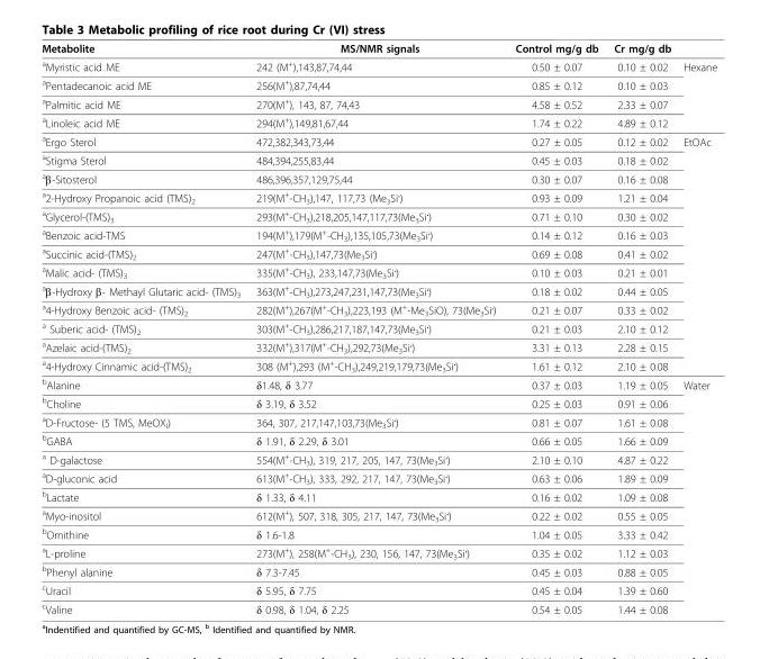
<table><thead><tr><td>Metabolite</td><td>MS/NMR signals</td><td>Control mg/g db</td><td>Cr mg/g db</td><td></td></tr></thead><tbody><tr><td><sup>a</sup>Myristic acid ME</td><td>242 (M<sup>+</sup>),143,87,74,44</td><td>0.50 ± 0.07</td><td>0.10 ± 0.02</td><td>Hexane</td></tr><tr><td><sup>a</sup>Pentadecanoic acid ME</td><td>256(M<sup>+</sup>),87,74,44</td><td>0.85 ± 0.12</td><td>0.10 ± 0.03</td><td></td></tr><tr><td><sup>a</sup>Palmitic acid ME</td><td>270(M<sup>+</sup>), 143, 87, 74,43</td><td>4.58 ± 0.52</td><td>2.33 ± 0.07</td><td></td></tr><tr><td><sup>a</sup>Linoleic acid ME</td><td>294(M<sup>+</sup>),149,81,67,44</td><td>1.74 ± 0.22</td><td>4.89 ± 0.12</td><td></td></tr><tr><td><sup>a</sup>Ergo Sterol</td><td>472,382,343,73,44</td><td>0.27 ± 0.05</td><td>0.12 ± 0.02</td><td>EtOAc</td></tr><tr><td><sup>a</sup>Stigma Sterol</td><td>484,394,255,83,44</td><td>0.45 ± 0.03</td><td>0.18 ± 0.02</td><td></td></tr><tr><td><sup>a</sup>β-Sitosterol</td><td>486,396,357,129,75,44</td><td>0.30 ± 0.07</td><td>0.16 ± 0.08</td><td></td></tr><tr><td><sup>a</sup>2-Hydroxy Propanoic acid (TMS)<sub>2</sub></td><td>219(M<sup>+</sup>-CH<sub>3</sub>),147, 117,73 (Me<sub>3</sub>Si<sup>.</sup>)</td><td>0.93 ± 0.09</td><td>1.21 ± 0.04</td><td></td></tr><tr><td><sup>a</sup>Glycerol-(TMS)<sub>3</sub></td><td>293(M<sup>+</sup>-CH<sub>3</sub>),218,205,147,117,73(Me<sub>3</sub>Si<sup>.</sup>)</td><td>0.71 ± 0.10</td><td>0.30 ± 0.02</td><td></td></tr><tr><td><sup>a</sup>Benzoic acid-TMS</td><td>194(M<sup>+</sup>),179(M<sup>+</sup>-CH<sub>3</sub>),135,105,73(Me<sub>3</sub>Si<sup>.</sup>)</td><td>0.14 ± 0.12</td><td>0.16 ± 0.03</td><td></td></tr><tr><td><sup>a</sup>Succinic acid-(TMS)<sub>2</sub></td><td>247(M<sup>+</sup>-CH<sub>3</sub>),147,73(Me<sub>3</sub>Si<sup>.</sup>)</td><td>0.69 ± 0.08</td><td>0.41 ± 0.02</td><td></td></tr><tr><td><sup>a</sup>Malic acid- (TMS)<sub>3</sub></td><td>335(M<sup>+</sup>-CH<sub>3</sub>), 233,147,73(Me<sub>3</sub>Si<sup>.</sup>)</td><td>0.10 ± 0.03</td><td>0.21 ± 0.01</td><td></td></tr><tr><td><sup>a</sup>β-Hydroxy β- Methayl Glutaric acid- (TMS)<sub>3</sub></td><td>363(M<sup>+</sup>-CH<sub>3</sub>),273,247,231,147,73(Me<sub>3</sub>Si<sup>.</sup>)</td><td>0.18 ± 0.02</td><td>0.44 ± 0.05</td><td></td></tr><tr><td><sup>a</sup>4-Hydroxy Benzoic acid- (TMS)<sub>2</sub></td><td>282(M<sup>+</sup>),267(M<sup>+</sup>-CH<sub>3</sub>),223,193 (M<sup>+</sup>-Me<sub>3</sub>SiO), 73(Me<sub>3</sub>Si<sup>.</sup>)</td><td>0.21 ± 0.07</td><td>0.33 ± 0.02</td><td></td></tr><tr><td><sup>a</sup> Suberic acid- (TMS)<sub>2</sub></td><td>303(M<sup>+</sup>-CH<sub>3</sub>),286,217,187,147,73(Me<sub>3</sub>Si<sup>.</sup>)</td><td>0.21 ± 0.03</td><td>2.10 ± 0.12</td><td></td></tr><tr><td><sup>a</sup>Azelaic acid-(TMS)<sub>2</sub></td><td>332(M<sup>+</sup>),317(M<sup>+</sup>-CH<sub>3</sub>),292,73(Me<sub>3</sub>Si<sup>.</sup>)</td><td>3.31 ± 0.13</td><td>2.28 ± 0.15</td><td></td></tr><tr><td><sup>a</sup>4-Hydroxy Cinnamic acid-(TMS)<sub>2</sub></td><td>308 (M<sup>+</sup>),293 (M<sup>+</sup>-CH<sub>3</sub>),249,219,179,73(Me<sub>3</sub>Si<sup>.</sup>)</td><td>1.61 ± 0.12</td><td>2.10 ± 0.08</td><td></td></tr><tr><td><sup>b</sup>Alanine</td><td>δ1.48, δ 3.77</td><td>0.37 ± 0.03</td><td>1.19 ± 0.05</td><td>Water</td></tr><tr><td><sup>b</sup>Choline</td><td>δ 3.19, δ 3.52</td><td>0.25 ± 0.03</td><td>0.91 ± 0.06</td><td></td></tr><tr><td><sup>a</sup>D-Fructose- (5 TMS, MeOX<sub>I</sub>)</td><td>364, 307, 217,147,103,73(Me<sub>3</sub>Si<sup>.</sup>)</td><td>0.81 ± 0.07</td><td>1.61 ± 0.08</td><td></td></tr><tr><td><sup>b</sup>GABA</td><td>δ 1.91, δ 2.29, δ 3.01</td><td>0.66 ± 0.05</td><td>1.66 ± 0.09</td><td></td></tr><tr><td><sup>a</sup> D-galactose</td><td>554(M<sup>+</sup>-CH<sub>3</sub>), 319, 217, 205, 147, 73(Me<sub>3</sub>Si<sup>.</sup>)</td><td>2.10 ± 0.10</td><td>4.87 ± 0.22</td><td></td></tr><tr><td><sup>a</sup>D-gluconic acid</td><td>613(M<sup>+</sup>-CH<sub>3</sub>), 333, 292, 217, 147, 73(Me<sub>3</sub>Si<sup>.</sup>)</td><td>0.63 ± 0.06</td><td>1.89 ± 0.09</td><td></td></tr><tr><td><sup>b</sup>Lactate</td><td>δ 1.33, δ 4.11</td><td>0.16 ± 0.02</td><td>1.09 ± 0.08</td><td></td></tr><tr><td><sup>a</sup>Myo-inositol</td><td>612(M<sup>+</sup>), 507, 318, 305, 217, 147, 73(Me<sub>3</sub>Si<sup>.</sup>)</td><td>0.22 ± 0.02</td><td>0.55 ± 0.05</td><td></td></tr><tr><td><sup>b</sup>Ornithine</td><td>δ 1.6-1.8</td><td>1.04 ± 0.05</td><td>3.33 ± 0.42</td><td></td></tr><tr><td><sup>a</sup>L-proline</td><td>273(M<sup>+</sup>), 258(M<sup>+</sup>-CH<sub>3</sub>), 230, 156, 147, 73(Me<sub>3</sub>Si<sup>.</sup>)</td><td>0.35 ± 0.02</td><td>1.12 ± 0.03</td><td></td></tr><tr><td><sup>b</sup>Phenyl alanine</td><td>δ 7.3-7.45</td><td>0.45 ± 0.03</td><td>0.88 ± 0.05</td><td></td></tr><tr><td><sup>c</sup>Uracil</td><td>δ 5.95, δ 7.75</td><td>0.45 ± 0.04</td><td>1.39 ± 0.60</td><td></td></tr><tr><td><sup>c</sup>Valine</td><td>δ 0.98, δ 1.04, δ 2.25</td><td>0.54 ± 0.05</td><td>1.44 ± 0.08</td><td></td></tr></tbody></table>